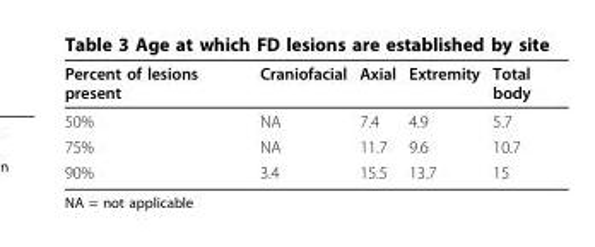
<table><thead><tr><td>Percent of lesions present</td><td>Craniofacial</td><td>Axial</td><td>Extremity</td><td>Total body</td></tr></thead><tbody><tr><td>50%</td><td>NA</td><td>7.4</td><td>4.9</td><td>5.7</td></tr><tr><td>75%</td><td>NA</td><td>11.7</td><td>9.6</td><td>10.7</td></tr><tr><td>90%</td><td>3.4</td><td>15.5</td><td>13.7</td><td>15</td></tr></tbody></table>